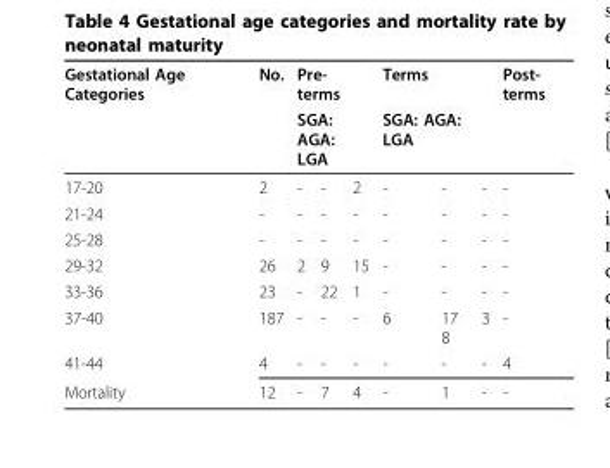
<table><thead><tr><td rowspan="3">Gestational Age Categories 17-20</td><td rowspan="3">No. 2</td><td colspan="2">Pre- terms</td><td></td><td>Terms</td><td></td><td></td><td rowspan="3">Post- terms -</td></tr><tr><td colspan="3">SGA: AGA: LGA</td><td colspan="3">SGA: AGA: LGA</td></tr><tr><td>-</td><td>-</td><td>2</td><td>-</td><td>-</td><td>-</td></tr></thead><tbody><tr><td>21-24</td><td>-</td><td>-</td><td>-</td><td>-</td><td>-</td><td>-</td><td>-</td><td>-</td></tr><tr><td>25-28</td><td>-</td><td>-</td><td>-</td><td>-</td><td>-</td><td>-</td><td>-</td><td>-</td></tr><tr><td>29-32</td><td>26</td><td>2</td><td>9</td><td>15</td><td>-</td><td>-</td><td>-</td><td>-</td></tr><tr><td>33-36</td><td>23</td><td>-</td><td>22</td><td>1</td><td>-</td><td>-</td><td>-</td><td>-</td></tr><tr><td>37-40</td><td>187</td><td>-</td><td>-</td><td>-</td><td>6</td><td>17 8</td><td>3</td><td>-</td></tr><tr><td>41-44</td><td>4</td><td>-</td><td>-</td><td>-</td><td>-</td><td>-</td><td>-</td><td>4</td></tr><tr><td>Mortality</td><td>12</td><td>-</td><td>7</td><td>4</td><td>-</td><td>1</td><td>-</td><td>-</td></tr></tbody></table>